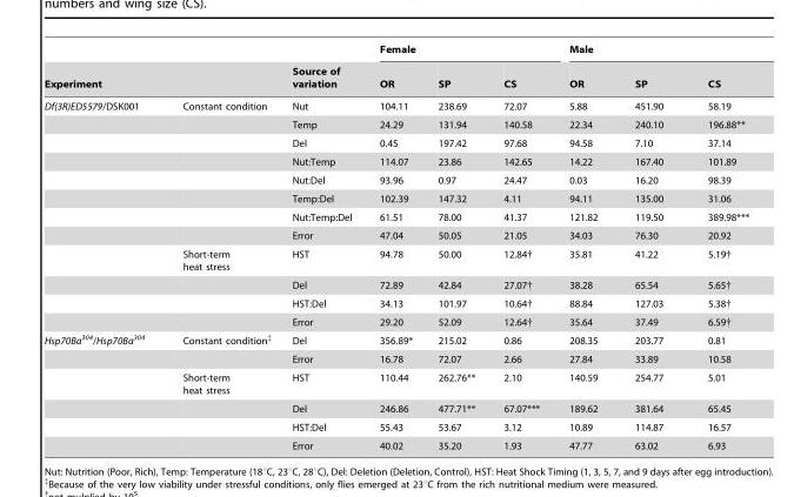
<table><thead><tr><td></td><td></td><td rowspan="2">Source of variation</td><td colspan="3">Female</td><td colspan="3">Male</td></tr><tr><td colspan="2">Experiment</td><td>OR</td><td>SP</td><td>CS</td><td>OR</td><td>SP</td><td>CS</td></tr></thead><tbody><tr><td rowspan="12">Df(3R)ED5579/DSK001</td><td>Constant condition</td><td>Nut</td><td>104.11</td><td>238.69</td><td>72.07</td><td>5.88</td><td>451.90</td><td>58.19</td></tr><tr><td></td><td>Temp</td><td>24.29</td><td>131.94</td><td>140.58</td><td>22.34</td><td>240.10</td><td>196.88**</td></tr><tr><td></td><td>Del</td><td>0.45</td><td>197.42</td><td>97.68</td><td>94.58</td><td>7.10</td><td>37.14</td></tr><tr><td></td><td>Nut:Temp</td><td>114.07</td><td>23.86</td><td>142.65</td><td>14.22</td><td>167.40</td><td>101.89</td></tr><tr><td></td><td>Nut:Del</td><td>93.96</td><td>0.97</td><td>24.47</td><td>0.03</td><td>16.20</td><td>98.39</td></tr><tr><td></td><td>Temp:Del</td><td>102.39</td><td>147.32</td><td>4.11</td><td>94.11</td><td>135.00</td><td>31.06</td></tr><tr><td></td><td>Nut:Temp:Del</td><td>61.51</td><td>78.00</td><td>41.37</td><td>121.82</td><td>119.50</td><td>389.98***</td></tr><tr><td></td><td>Error</td><td>47.04</td><td>50.05</td><td>21.05</td><td>34.03</td><td>76.30</td><td>20.92</td></tr><tr><td>Short-term heat stress</td><td>HST</td><td>94.78</td><td>50.00</td><td>12.84†</td><td>35.81</td><td>41.22</td><td>5.19†</td></tr><tr><td></td><td>Del</td><td>72.89</td><td>42.84</td><td>27.07†</td><td>38.28</td><td>65.54</td><td>5.65†</td></tr><tr><td></td><td>HST:Del</td><td>34.13</td><td>101.97</td><td>10.64†</td><td>88.84</td><td>127.03</td><td>5.38†</td></tr><tr><td></td><td>Error</td><td>29.20</td><td>52.09</td><td>12.64†</td><td>35.64</td><td>37.49</td><td>6.59†</td></tr><tr><td rowspan="6">Hsp70Ba<sup>304</sup>/Hsp70Ba<sup>304</sup></td><td>Constant condition‡</td><td>Del</td><td>356.89*</td><td>215.02</td><td>0.86</td><td>208.35</td><td>203.77</td><td>0.81</td></tr><tr><td></td><td>Error</td><td>16.78</td><td>72.07</td><td>2.66</td><td>27.84</td><td>33.89</td><td>10.58</td></tr><tr><td>Short-term heat stress</td><td>HST</td><td>110.44</td><td>262.76**</td><td>2.10</td><td>140.59</td><td>254.77</td><td>5.01</td></tr><tr><td></td><td>Del</td><td>246.86</td><td>477.71**</td><td>67.07***</td><td>189.62</td><td>381.64</td><td>65.45</td></tr><tr><td></td><td>HST:Del</td><td>55.43</td><td>53.67</td><td>3.12</td><td>10.89</td><td>114.87</td><td>16.57</td></tr><tr><td></td><td>Error</td><td>40.02</td><td>35.20</td><td>1.93</td><td>47.77</td><td>63.02</td><td>6.93</td></tr></tbody></table>